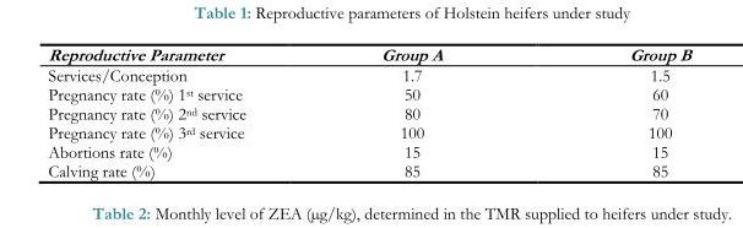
<table><thead><tr><td>Reproductive Parameter</td><td>Group A</td><td>Group B</td></tr></thead><tbody><tr><td>Services/Conception</td><td>1.7</td><td>1.5</td></tr><tr><td>Pregnancy rate (%) 1<sup>st</sup> service</td><td>50</td><td>60</td></tr><tr><td>Pregnancy rate (%) 2<sup>nd</sup> service</td><td>80</td><td>70</td></tr><tr><td>Pregnancy rate (%) 3<sup>rd</sup> service</td><td>100</td><td>100</td></tr><tr><td>Abortions rate (%)</td><td>15</td><td>15</td></tr><tr><td>Calving rate (%)</td><td>85</td><td>85</td></tr></tbody></table>